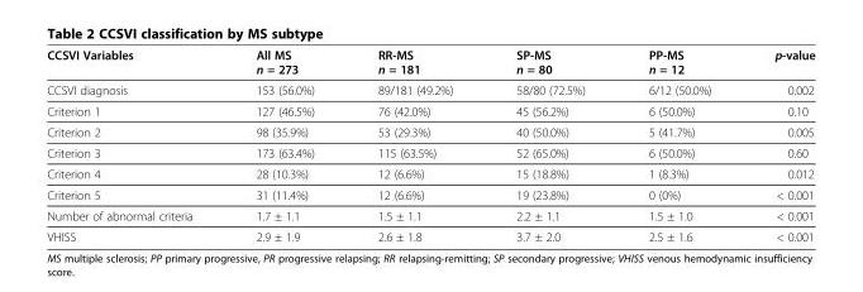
<table><thead><tr><td>CCSVI Variables</td><td>All MS n = 273</td><td>RR-MS n = 181</td><td>SP-MS n = 80</td><td>PP-MS n = 12</td><td>p-value</td></tr></thead><tbody><tr><td>CCSVI diagnosis</td><td>153 (56.0%)</td><td>89/181 (49.2%)</td><td>58/80 (72.5%)</td><td>6/12 (50.0%)</td><td>0.002</td></tr><tr><td>Criterion 1</td><td>127 (46.5%)</td><td>76 (42.0%)</td><td>45 (56.2%)</td><td>6 (50.0%)</td><td>0.10</td></tr><tr><td>Criterion 2</td><td>98 (35.9%)</td><td>53 (29.3%)</td><td>40 (50.0%)</td><td>5 (41.7%)</td><td>0.005</td></tr><tr><td>Criterion 3</td><td>173 (63.4%)</td><td>115 (63.5%)</td><td>52 (65.0%)</td><td>6 (50.0%)</td><td>0.60</td></tr><tr><td>Criterion 4</td><td>28 (10.3%)</td><td>12 (6.6%)</td><td>15 (18.8%)</td><td>1 (8.3%)</td><td>0.012</td></tr><tr><td>Criterion 5</td><td>31 (11.4%)</td><td>12 (6.6%)</td><td>19 (23.8%)</td><td>0 (0%)</td><td>&lt; 0.001</td></tr><tr><td>Number of abnormal criteria</td><td>1.7 ± 1.1</td><td>1.5 ± 1.1</td><td>2.2 ± 1.1</td><td>1.5 ± 1.0</td><td>&lt; 0.001</td></tr><tr><td>VHISS</td><td>2.9 ± 1.9</td><td>2.6 ± 1.8</td><td>3.7 ± 2.0</td><td>2.5 ± 1.6</td><td>&lt; 0.001</td></tr></tbody></table>